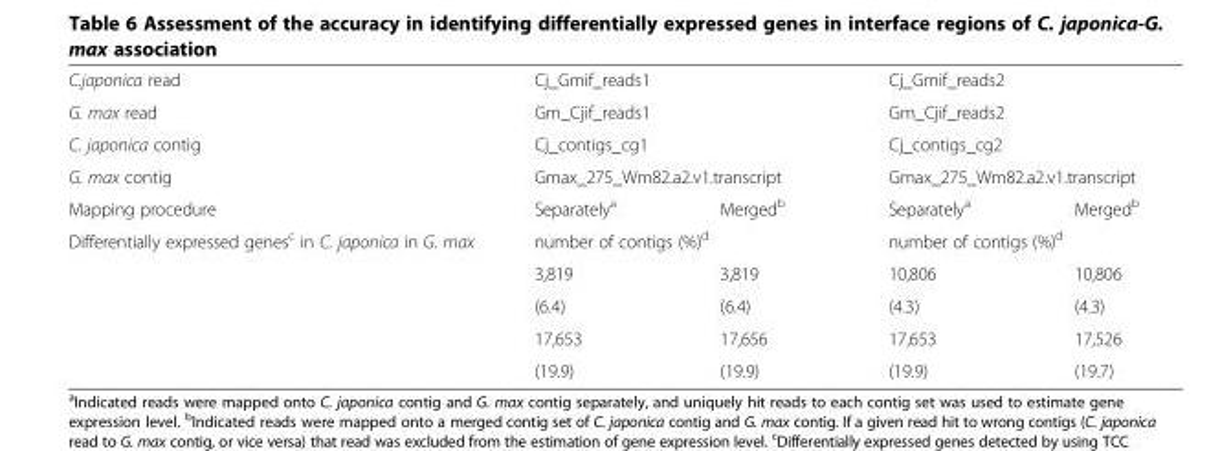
<table><tbody><tr><td>C.japonica read</td><td colspan="2">Cj_Gmif_reads1</td><td colspan="2">Cj_Gmif_reads2</td></tr><tr><td>G. max read</td><td colspan="2">Gm_Cjif_reads1</td><td colspan="2">Gm_Cjif_reads2</td></tr><tr><td>C. japonica contig</td><td colspan="2">Cj_contigs_cg1</td><td colspan="2">Cj_contigs_cg2</td></tr><tr><td>G. max contig</td><td colspan="2">Gmax_275_Wm82.a2.v1.transcript</td><td colspan="2">Gmax_275_Wm82.a2.v1.transcript</td></tr><tr><td>Mapping procedure</td><td>Separately<sup>a</sup></td><td>Merged<sup>b</sup></td><td>Separately<sup>a</sup></td><td>Merged<sup>b</sup></td></tr><tr><td rowspan="5">Differentially expressed genes<sup>c</sup> in C. japonica in G. max</td><td colspan="2">number of contigs (%)<sup>d</sup></td><td colspan="2">number of contigs (%)<sup>d</sup></td></tr><tr><td>3,819</td><td>3,819</td><td>10,806</td><td>10,806</td></tr><tr><td>(6.4)</td><td>(6.4)</td><td>(4.3)</td><td>(4.3)</td></tr><tr><td>17,653</td><td>17,656</td><td>17,653</td><td>17,526</td></tr><tr><td>(19.9)</td><td>(19.9)</td><td>(19.9)</td><td>(19.7)</td></tr></tbody></table>